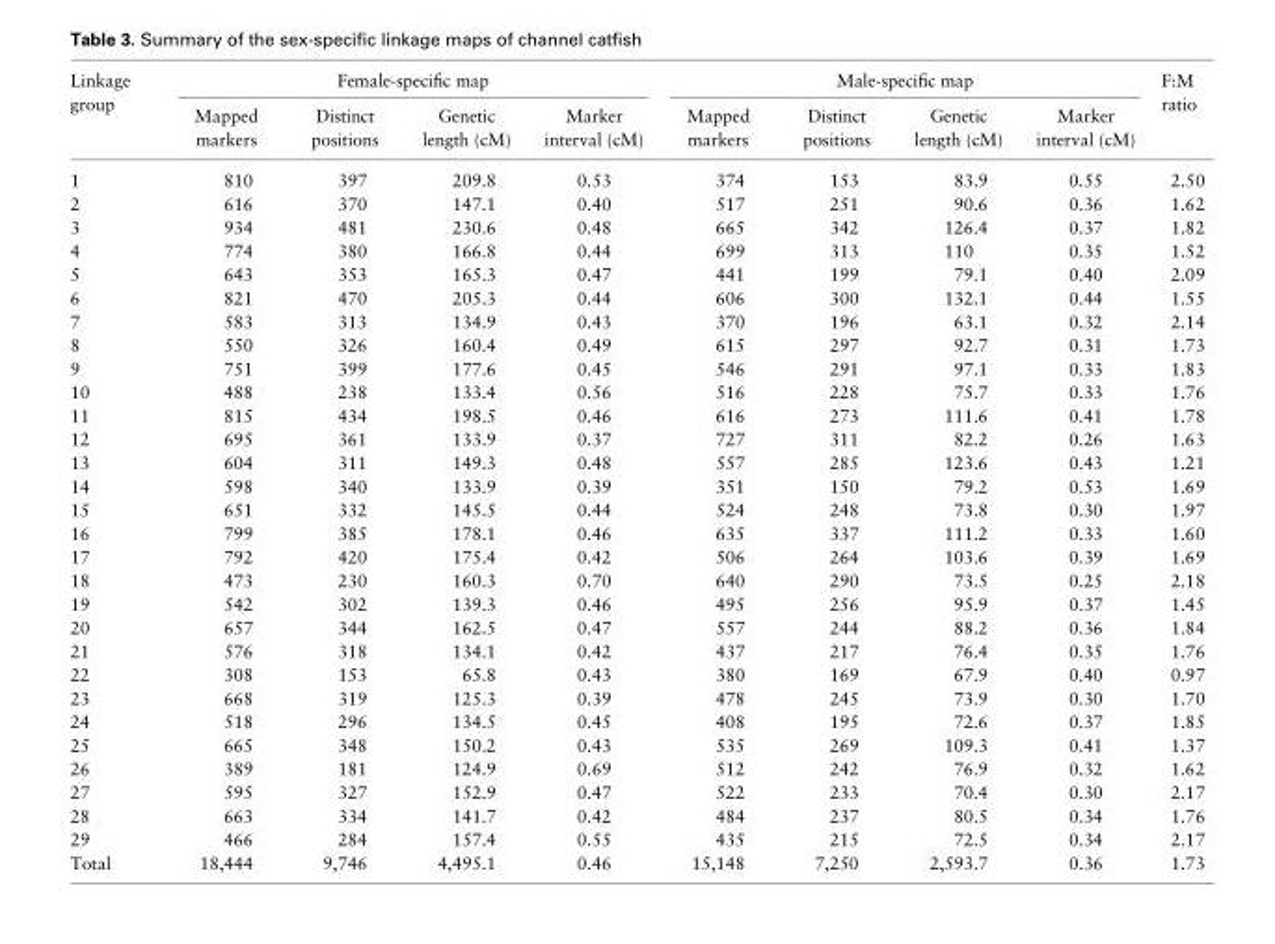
<table><thead><tr><td rowspan="2">Linkage group</td><td colspan="4">Female-specific map</td><td colspan="4">Male-specific map</td><td rowspan="2">F:M ratio</td></tr><tr><td>Mapped markers</td><td>Distinct positions</td><td>Genetic length (cM)</td><td>Marker interval (cM)</td><td>Mapped markers</td><td>Distinct positions</td><td>Genetic length (cM)</td><td>Marker interval (cM)</td></tr></thead><tbody><tr><td>1</td><td>810</td><td>397</td><td>209.8</td><td>0.53</td><td>374</td><td>153</td><td>83.9</td><td>0.55</td><td>2.50</td></tr><tr><td>2</td><td>616</td><td>370</td><td>147.1</td><td>0.40</td><td>517</td><td>251</td><td>90.6</td><td>0.36</td><td>1.62</td></tr><tr><td>3</td><td>934</td><td>481</td><td>230.6</td><td>0.48</td><td>665</td><td>342</td><td>126.4</td><td>0.37</td><td>1.82</td></tr><tr><td>4</td><td>774</td><td>380</td><td>166.8</td><td>0.44</td><td>699</td><td>313</td><td>110</td><td>0.35</td><td>1.52</td></tr><tr><td>5</td><td>643</td><td>353</td><td>165.3</td><td>0.47</td><td>441</td><td>199</td><td>79.1</td><td>0.40</td><td>2.09</td></tr><tr><td>6</td><td>821</td><td>470</td><td>205.3</td><td>0.44</td><td>606</td><td>300</td><td>132.1</td><td>0.44</td><td>1.55</td></tr><tr><td>7</td><td>583</td><td>313</td><td>134.9</td><td>0.43</td><td>370</td><td>196</td><td>63.1</td><td>0.32</td><td>2.14</td></tr><tr><td>8</td><td>550</td><td>326</td><td>160.4</td><td>0.49</td><td>615</td><td>297</td><td>92.7</td><td>0.31</td><td>1.73</td></tr><tr><td>9</td><td>751</td><td>399</td><td>177.6</td><td>0.45</td><td>546</td><td>291</td><td>97.1</td><td>0.33</td><td>1.83</td></tr><tr><td>10</td><td>488</td><td>238</td><td>133.4</td><td>0.56</td><td>516</td><td>228</td><td>75.7</td><td>0.33</td><td>1.76</td></tr><tr><td>11</td><td>815</td><td>434</td><td>198.5</td><td>0.46</td><td>616</td><td>273</td><td>111.6</td><td>0.41</td><td>1.78</td></tr><tr><td>12</td><td>695</td><td>361</td><td>133.9</td><td>0.37</td><td>727</td><td>311</td><td>82.2</td><td>0.26</td><td>1.63</td></tr><tr><td>13</td><td>604</td><td>311</td><td>149.3</td><td>0.48</td><td>557</td><td>285</td><td>123.6</td><td>0.43</td><td>1.21</td></tr><tr><td>14</td><td>598</td><td>340</td><td>133.9</td><td>0.39</td><td>351</td><td>150</td><td>79.2</td><td>0.53</td><td>1.69</td></tr><tr><td>15</td><td>651</td><td>332</td><td>145.5</td><td>0.44</td><td>524</td><td>248</td><td>73.8</td><td>0.30</td><td>1.97</td></tr><tr><td>16</td><td>799</td><td>385</td><td>178.1</td><td>0.46</td><td>635</td><td>337</td><td>111.2</td><td>0.33</td><td>1.60</td></tr><tr><td>17</td><td>792</td><td>420</td><td>175.4</td><td>0.42</td><td>506</td><td>264</td><td>103.6</td><td>0.39</td><td>1.69</td></tr><tr><td>18</td><td>473</td><td>230</td><td>160.3</td><td>0.70</td><td>640</td><td>290</td><td>73.5</td><td>0.25</td><td>2.18</td></tr><tr><td>19</td><td>542</td><td>302</td><td>139.3</td><td>0.46</td><td>495</td><td>256</td><td>95.9</td><td>0.37</td><td>1.45</td></tr><tr><td>20</td><td>657</td><td>344</td><td>162.5</td><td>0.47</td><td>557</td><td>244</td><td>88.2</td><td>0.36</td><td>1.84</td></tr><tr><td>21</td><td>576</td><td>318</td><td>134.1</td><td>0.42</td><td>437</td><td>217</td><td>76.4</td><td>0.35</td><td>1.76</td></tr><tr><td>22</td><td>308</td><td>153</td><td>65.8</td><td>0.43</td><td>380</td><td>169</td><td>67.9</td><td>0.40</td><td>0.97</td></tr><tr><td>23</td><td>668</td><td>319</td><td>125.3</td><td>0.39</td><td>478</td><td>245</td><td>73.9</td><td>0.30</td><td>1.70</td></tr><tr><td>24</td><td>518</td><td>296</td><td>134.5</td><td>0.45</td><td>408</td><td>195</td><td>72.6</td><td>0.37</td><td>1.85</td></tr><tr><td>25</td><td>665</td><td>348</td><td>150.2</td><td>0.43</td><td>535</td><td>269</td><td>109.3</td><td>0.41</td><td>1.37</td></tr><tr><td>26</td><td>389</td><td>181</td><td>124.9</td><td>0.69</td><td>512</td><td>242</td><td>76.9</td><td>0.32</td><td>1.62</td></tr><tr><td>27</td><td>595</td><td>327</td><td>152.9</td><td>0.47</td><td>522</td><td>233</td><td>70.4</td><td>0.30</td><td>2.17</td></tr><tr><td>28</td><td>663</td><td>334</td><td>141.7</td><td>0.42</td><td>484</td><td>237</td><td>80.5</td><td>0.34</td><td>1.76</td></tr><tr><td>29</td><td>466</td><td>284</td><td>157.4</td><td>0.55</td><td>435</td><td>215</td><td>72.5</td><td>0.34</td><td>2.17</td></tr><tr><td>Total</td><td>18,444</td><td>9,746</td><td>4,495.1</td><td>0.46</td><td>15,148</td><td>7,250</td><td>2,593.7</td><td>0.36</td><td>1.73</td></tr></tbody></table>